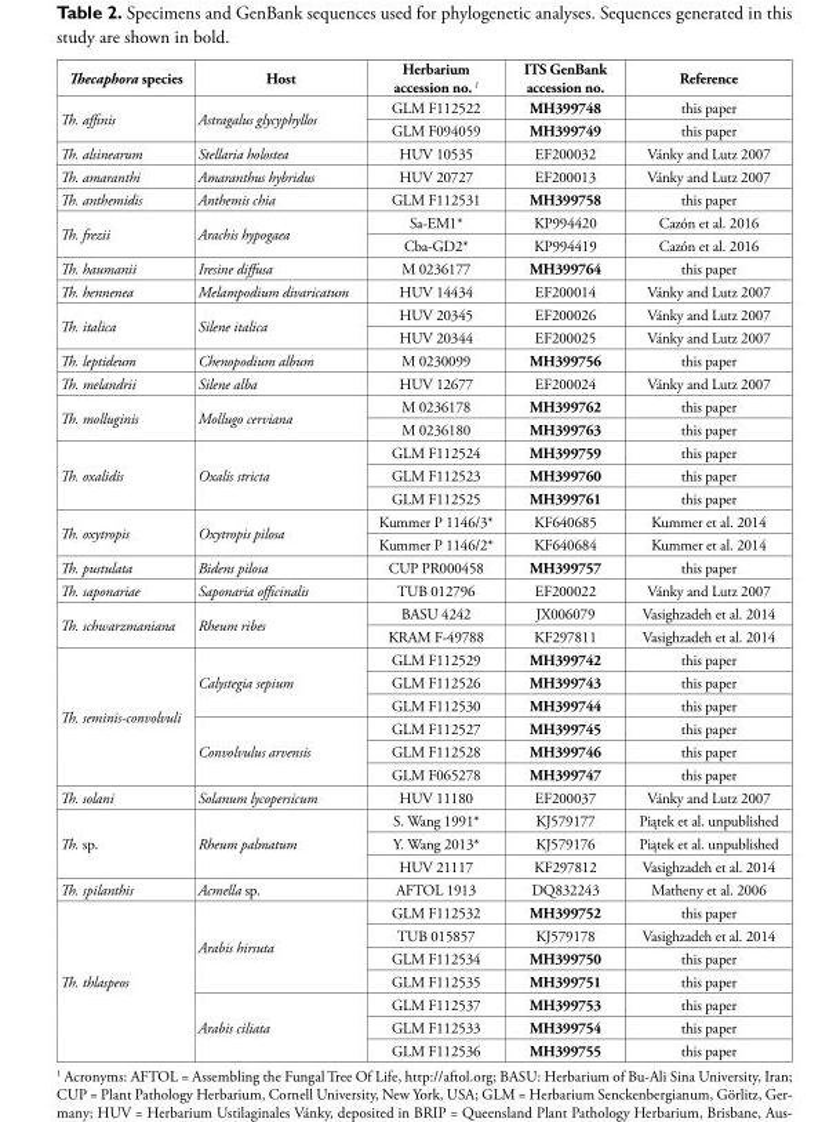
<table><tbody><tr><td>Thecaphora species</td><td>Host</td><td>Herbarium accession no. <sup>1</sup></td><td>ITS GenBank accession no.</td><td>Reference</td></tr><tr><td rowspan="2">Th. affinis</td><td rowspan="2">Astragalus glycyphyllos</td><td>GLM F112522</td><td>MH399748</td><td>this paper</td></tr><tr><td>GLM F094059</td><td>MH399749</td><td>this paper</td></tr><tr><td>Th. alsinearum</td><td>Stellaria holostea</td><td>HUV 10535</td><td>EF200032</td><td>Vánky and Lutz 2007</td></tr><tr><td>Th. amaranthi</td><td>Amaranthus hybridus</td><td>HUV 20727</td><td>EF200013</td><td>Vánky and Lutz 2007</td></tr><tr><td>Th. anthemidis</td><td>Anthemis chia</td><td>GLM F112531</td><td>MH399758</td><td>this paper</td></tr><tr><td rowspan="2">Th. frezii</td><td rowspan="2">Arachis hypogaea</td><td>Sa-EM1*</td><td>KP994420</td><td>Cazón et al. 2016</td></tr><tr><td>Cba-GD2*</td><td>KP994419</td><td>Cazón et al. 2016</td></tr><tr><td>Th. haumanii</td><td>Iresine diffusa</td><td>M 0236177</td><td>MH399764</td><td>this paper</td></tr><tr><td>Th. hennenea</td><td>Melampodium divaricatum</td><td>HUV 14434</td><td>EF200014</td><td>Vánky and Lutz 2007</td></tr><tr><td rowspan="2">Th. italica</td><td rowspan="2">Silene italica</td><td>HUV 20345</td><td>EF200026</td><td>Vánky and Lutz 2007</td></tr><tr><td>HUV 20344</td><td>EF200025</td><td>Vánky and Lutz 2007</td></tr><tr><td>Th. leptideum</td><td>Chenopodium album</td><td>M 0230099</td><td>MH399756</td><td>this paper</td></tr><tr><td>Th. melandrii</td><td>Silene alba</td><td>HUV 12677</td><td>EF200024</td><td>Vánky and Lutz 2007</td></tr><tr><td rowspan="2">Th. molluginis</td><td rowspan="2">Mollugo cerviana</td><td>M 0236178</td><td>MH399762</td><td>this paper</td></tr><tr><td>M 0236180</td><td>MH399763</td><td>this paper</td></tr><tr><td rowspan="3">Th. oxalidis</td><td rowspan="3">Oxalis stricta</td><td>GLM F112524</td><td>MH399759</td><td>this paper</td></tr><tr><td>GLM F112523</td><td>MH399760</td><td>this paper</td></tr><tr><td>GLM F112525</td><td>MH399761</td><td>this paper</td></tr><tr><td rowspan="2">Th. oxytropis</td><td rowspan="2">Oxytropis pilosa</td><td>Kummer P 1146/3*</td><td>KF640685</td><td>Kummer et al. 2014</td></tr><tr><td>Kummer P 1146/2*</td><td>KF640684</td><td>Kummer et al. 2014</td></tr><tr><td>Th. pustulata</td><td>Bidens pilosa</td><td>CUP PR000458</td><td>MH399757</td><td>this paper</td></tr><tr><td>Th. saponariae</td><td>Saponaria officinalis</td><td>TUB 012796</td><td>EF200022</td><td>Vánky and Lutz 2007</td></tr><tr><td rowspan="2">Th. schwarzmaniana</td><td rowspan="2">Rheum ribes</td><td>BASU 4242</td><td>JX006079</td><td>Vasighzadeh et al. 2014</td></tr><tr><td>KRAM F-49788</td><td>KF297811</td><td>Vasighzadeh et al. 2014</td></tr><tr><td rowspan="6">Th. seminis-convolvuli</td><td rowspan="3">Calystegia sepium</td><td>GLM F112529</td><td>MH399742</td><td>this paper</td></tr><tr><td>GLM F112526</td><td>MH399743</td><td>this paper</td></tr><tr><td>GLM F112530</td><td>MH399744</td><td>this paper</td></tr><tr><td rowspan="3">Convolvulus arvensis</td><td>GLM F112527</td><td>MH399745</td><td>this paper</td></tr><tr><td>GLM F112528</td><td>MH399746</td><td>this paper</td></tr><tr><td>GLM F065278</td><td>MH399747</td><td>this paper</td></tr><tr><td>Th. solani</td><td>Solanum lycopersicum</td><td>HUV 11180</td><td>EF200037</td><td>Vánky and Lutz 2007</td></tr><tr><td rowspan="3">Th. sp.</td><td rowspan="3">Rheum palmatum</td><td>S. Wang 1991*</td><td>KJ579177</td><td>Piątek et al. unpublished</td></tr><tr><td>Y. Wang 2013*</td><td>KJ579176</td><td>Piątek et al. unpublished</td></tr><tr><td>HUV 21117</td><td>KF297812</td><td>Vasighzadeh et al. 2014</td></tr><tr><td>Th. spilanthis</td><td>Acmella sp.</td><td>AFTOL 1913</td><td>DQ832243</td><td>Matheny et al. 2006</td></tr><tr><td rowspan="7">Th. thlaspeos</td><td rowspan="4">Arabis hirsuta</td><td>GLM F112532</td><td>MH399752</td><td>this paper</td></tr><tr><td>TUB 015857</td><td>KJ579178</td><td>Vasighzadeh et al. 2014</td></tr><tr><td>GLM F112534</td><td>MH399750</td><td>this paper</td></tr><tr><td>GLM F112535</td><td>MH399751</td><td>this paper</td></tr><tr><td rowspan="3">Arabis ciliata</td><td>GLM F112537</td><td>MH399753</td><td>this paper</td></tr><tr><td>GLM F112533</td><td>MH399754</td><td>this paper</td></tr><tr><td>GLM F112536</td><td>MH399755</td><td>this paper</td></tr></tbody></table>